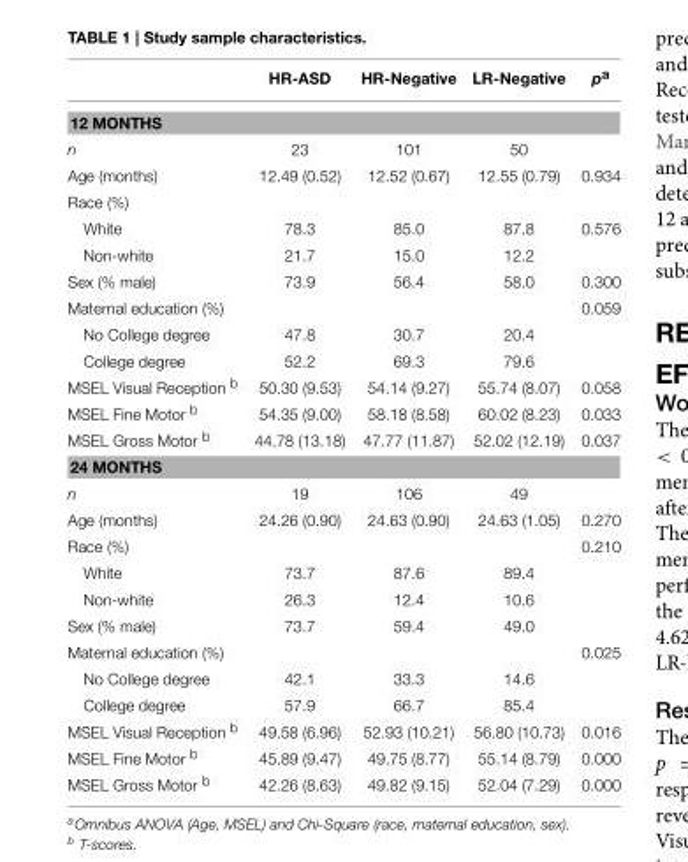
<table><thead><tr><td></td><td>HR-ASD</td><td>HR-Negative</td><td>LR-Negative</td><td>p<sup>a</sup></td></tr></thead><tbody><tr><td colspan="5">12 MONTHS</td></tr><tr><td>n</td><td>23</td><td>101</td><td>50</td><td></td></tr><tr><td>Age (months)</td><td>12.49 (0.52)</td><td>12.52 (0.67)</td><td>12.55 (0.79)</td><td>0.934</td></tr><tr><td colspan="5">Race (%)</td></tr><tr><td>White</td><td>78.3</td><td>85.0</td><td>87.8</td><td>0.576</td></tr><tr><td>Non-white</td><td>21.7</td><td>15.0</td><td>12.2</td><td></td></tr><tr><td>Sex (% male)</td><td>73.9</td><td>56.4</td><td>58.0</td><td>0.300</td></tr><tr><td>Maternal education (%)</td><td></td><td></td><td></td><td>0.059</td></tr><tr><td>No College degree</td><td>47.8</td><td>30.7</td><td>20.4</td><td></td></tr><tr><td>College degree</td><td>52.2</td><td>69.3</td><td>79.6</td><td></td></tr><tr><td>MSEL Visual Reception <sup>b</sup></td><td>50.30 (9.53)</td><td>54.14 (9.27)</td><td>55.74 (8.07)</td><td>0.058</td></tr><tr><td>MSEL Fine Motor <sup>b</sup></td><td>54.35 (9.00)</td><td>58.18 (8.58)</td><td>60.02 (8.23)</td><td>0.033</td></tr><tr><td>MSEL Gross Motor <sup>b</sup></td><td>44.78 (13.18)</td><td>47.77 (11.87)</td><td>52.02 (12.19)</td><td>0.037</td></tr><tr><td colspan="5">24 MONTHS</td></tr><tr><td>n</td><td>19</td><td>106</td><td>49</td><td></td></tr><tr><td>Age (months)</td><td>24.26 (0.90)</td><td>24.63 (0.90)</td><td>24.63 (1.05)</td><td>0.270</td></tr><tr><td>Race (%)</td><td></td><td></td><td></td><td>0.210</td></tr><tr><td>White</td><td>73.7</td><td>87.6</td><td>89.4</td><td></td></tr><tr><td>Non-white</td><td>26.3</td><td>12.4</td><td>10.6</td><td></td></tr><tr><td>Sex (% male)</td><td>73.7</td><td>59.4</td><td>49.0</td><td></td></tr><tr><td>Maternal education (%)</td><td></td><td></td><td></td><td>0.025</td></tr><tr><td>No College degree</td><td>42.1</td><td>33.3</td><td>14.6</td><td></td></tr><tr><td>College degree</td><td>57.9</td><td>66.7</td><td>85.4</td><td></td></tr><tr><td>MSEL Visual Reception <sup>b</sup></td><td>49.58 (6.96)</td><td>52.93 (10.21)</td><td>56.80 (10.73)</td><td>0.016</td></tr><tr><td>MSEL Fine Motor <sup>b</sup></td><td>45.89 (9.47)</td><td>49.75 (8.77)</td><td>55.14 (8.79)</td><td>0.000</td></tr><tr><td>MSEL Gross Motor <sup>b</sup></td><td>42.26 (8.63)</td><td>49.82 (9.15)</td><td>52.04 (7.29)</td><td>0.000</td></tr></tbody></table>